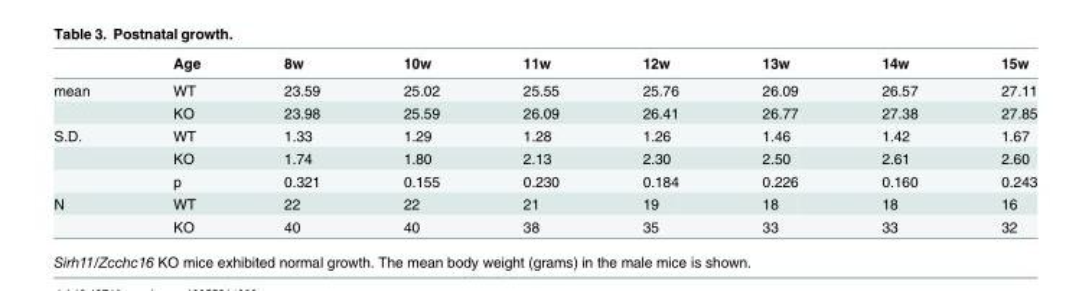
<table><thead><tr><td></td><td>Age</td><td>8w</td><td>10w</td><td>11w</td><td>12w</td><td>13w</td><td>14w</td><td>15w</td></tr></thead><tbody><tr><td rowspan="2">mean</td><td>WT</td><td>23.59</td><td>25.02</td><td>25.55</td><td>25.76</td><td>26.09</td><td>26.57</td><td>27.11</td></tr><tr><td>KO</td><td>23.98</td><td>25.59</td><td>26.09</td><td>26.41</td><td>26.77</td><td>27.38</td><td>27.85</td></tr><tr><td rowspan="3">S.D.</td><td>WT</td><td>1.33</td><td>1.29</td><td>1.28</td><td>1.26</td><td>1.46</td><td>1.42</td><td>1.67</td></tr><tr><td>KO</td><td>1.74</td><td>1.80</td><td>2.13</td><td>2.30</td><td>2.50</td><td>2.61</td><td>2.60</td></tr><tr><td>p</td><td>0.321</td><td>0.155</td><td>0.230</td><td>0.184</td><td>0.226</td><td>0.160</td><td>0.243</td></tr><tr><td rowspan="2">N</td><td>WT</td><td>22</td><td>22</td><td>21</td><td>19</td><td>18</td><td>18</td><td>16</td></tr><tr><td>KO</td><td>40</td><td>40</td><td>38</td><td>35</td><td>33</td><td>33</td><td>32</td></tr></tbody></table>